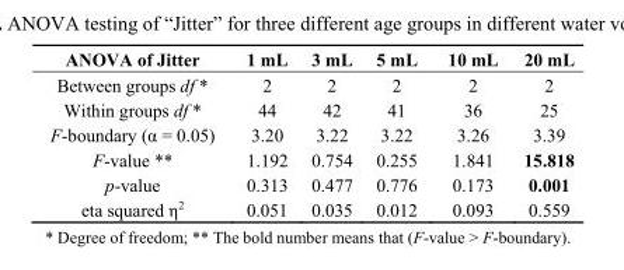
<table><thead><tr><td>ANOVA of Jitter</td><td>1 mL</td><td>3 mL</td><td>5 mL</td><td>10 mL</td><td>20 mL</td></tr></thead><tbody><tr><td>Between groups df *</td><td>2</td><td>2</td><td>2</td><td>2</td><td>2</td></tr><tr><td>Within groups df *</td><td>44</td><td>42</td><td>41</td><td>36</td><td>25</td></tr><tr><td>F-boundary (α = 0.05)</td><td>3.20</td><td>3.22</td><td>3.22</td><td>3.26</td><td>3.39</td></tr><tr><td>F-value **</td><td>1.192</td><td>0.754</td><td>0.255</td><td>1.841</td><td>15.818</td></tr><tr><td>p-value</td><td>0.313</td><td>0.477</td><td>0.776</td><td>0.173</td><td>0.001</td></tr><tr><td>eta squared η<sup>2</sup></td><td>0.051</td><td>0.035</td><td>0.012</td><td>0.093</td><td>0.559</td></tr></tbody></table>